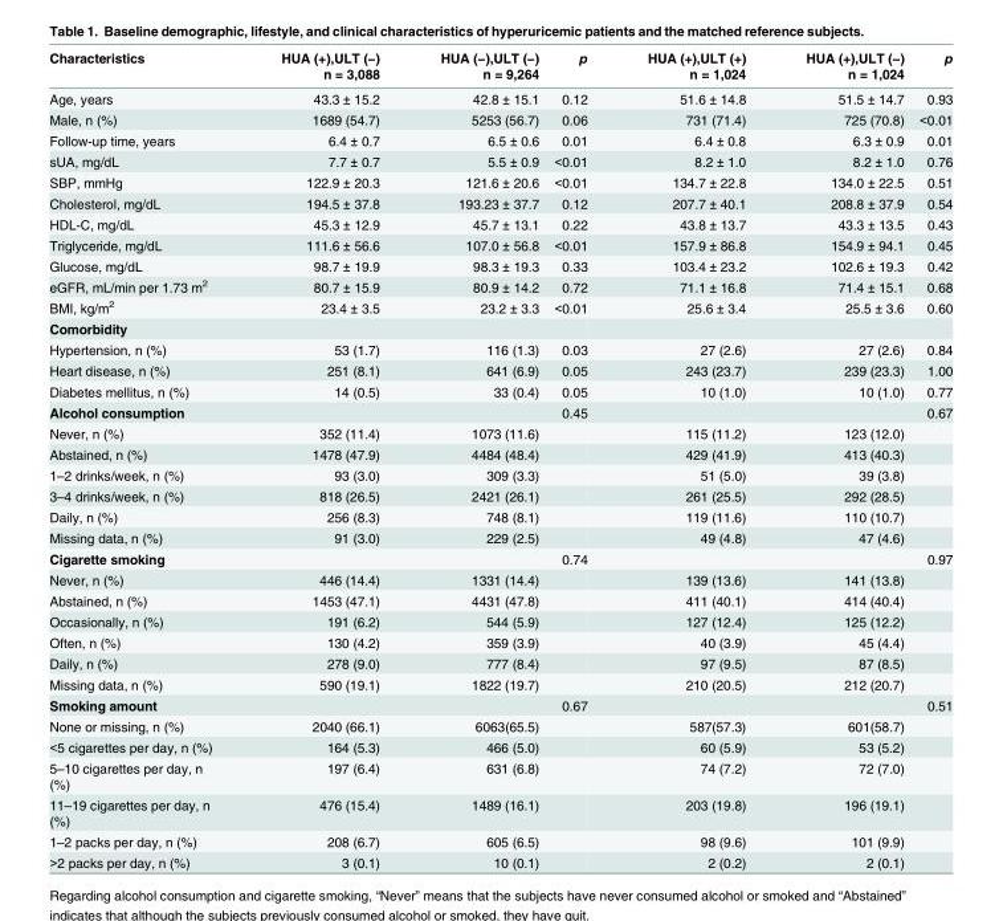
<table><thead><tr><td>Characteristics</td><td>HUA (+),ULT (−) n = 3,088</td><td>HUA (−),ULT (−) n = 9,264</td><td>p</td><td>HUA (+),ULT (+) n = 1,024</td><td>HUA (+),ULT (−) n = 1,024</td><td>p</td></tr></thead><tbody><tr><td>Age, years</td><td>43.3 ± 15.2</td><td>42.8 ± 15.1</td><td>0.12</td><td>51.6 ± 14.8</td><td>51.5 ± 14.7</td><td>0.93</td></tr><tr><td>Male, n (%)</td><td>1689 (54.7)</td><td>5253 (56.7)</td><td>0.06</td><td>731 (71.4)</td><td>725 (70.8)</td><td>&lt;0.01</td></tr><tr><td>Follow-up time, years</td><td>6.4 ± 0.7</td><td>6.5 ± 0.6</td><td>0.01</td><td>6.4 ± 0.8</td><td>6.3 ± 0.9</td><td>0.01</td></tr><tr><td>sUA, mg/dL</td><td>7.7 ± 0.7</td><td>5.5 ± 0.9</td><td>&lt;0.01</td><td>8.2 ± 1.0</td><td>8.2 ± 1.0</td><td>0.76</td></tr><tr><td>SBP, mmHg</td><td>122.9 ± 20.3</td><td>121.6 ± 20.6</td><td>&lt;0.01</td><td>134.7 ± 22.8</td><td>134.0 ± 22.5</td><td>0.51</td></tr><tr><td>Cholesterol, mg/dL</td><td>194.5 ± 37.8</td><td>193.23 ± 37.7</td><td>0.12</td><td>207.7 ± 40.1</td><td>208.8 ± 37.9</td><td>0.54</td></tr><tr><td>HDL-C, mg/dL</td><td>45.3 ± 12.9</td><td>45.7 ± 13.1</td><td>0.22</td><td>43.8 ± 13.7</td><td>43.3 ± 13.5</td><td>0.43</td></tr><tr><td>Triglyceride, mg/dL</td><td>111.6 ± 56.6</td><td>107.0 ± 56.8</td><td>&lt;0.01</td><td>157.9 ± 86.8</td><td>154.9 ± 94.1</td><td>0.45</td></tr><tr><td>Glucose, mg/dL</td><td>98.7 ± 19.9</td><td>98.3 ± 19.3</td><td>0.33</td><td>103.4 ± 23.2</td><td>102.6 ± 19.3</td><td>0.42</td></tr><tr><td>eGFR, mL/min per 1.73 m<sup>2</sup></td><td>80.7 ± 15.9</td><td>80.9 ± 14.2</td><td>0.72</td><td>71.1 ± 16.8</td><td>71.4 ± 15.1</td><td>0.68</td></tr><tr><td>BMI, kg/m<sup>2</sup></td><td>23.4 ± 3.5</td><td>23.2 ± 3.3</td><td>&lt;0.01</td><td>25.6 ± 3.4</td><td>25.5 ± 3.6</td><td>0.60</td></tr><tr><td colspan="7">Comorbidity</td></tr><tr><td>Hypertension, n (%)</td><td>53 (1.7)</td><td>116 (1.3)</td><td>0.03</td><td>27 (2.6)</td><td>27 (2.6)</td><td>0.84</td></tr><tr><td>Heart disease, n (%)</td><td>251 (8.1)</td><td>641 (6.9)</td><td>0.05</td><td>243 (23.7)</td><td>239 (23.3)</td><td>1.00</td></tr><tr><td>Diabetes mellitus, n (%)</td><td>14 (0.5)</td><td>33 (0.4)</td><td>0.05</td><td>10 (1.0)</td><td>10 (1.0)</td><td>0.77</td></tr><tr><td>Alcohol consumption</td><td></td><td></td><td>0.45</td><td></td><td></td><td>0.67</td></tr><tr><td>Never, n (%)</td><td>352 (11.4)</td><td>1073 (11.6)</td><td></td><td>115 (11.2)</td><td>123 (12.0)</td><td></td></tr><tr><td>Abstained, n (%)</td><td>1478 (47.9)</td><td>4484 (48.4)</td><td></td><td>429 (41.9)</td><td>413 (40.3)</td><td></td></tr><tr><td>1–2 drinks/week, n (%)</td><td>93 (3.0)</td><td>309 (3.3)</td><td></td><td>51 (5.0)</td><td>39 (3.8)</td><td></td></tr><tr><td>3–4 drinks/week, n (%)</td><td>818 (26.5)</td><td>2421 (26.1)</td><td></td><td>261 (25.5)</td><td>292 (28.5)</td><td></td></tr><tr><td>Daily, n (%)</td><td>256 (8.3)</td><td>748 (8.1)</td><td></td><td>119 (11.6)</td><td>110 (10.7)</td><td></td></tr><tr><td>Missing data, n (%)</td><td>91 (3.0)</td><td>229 (2.5)</td><td></td><td>49 (4.8)</td><td>47 (4.6)</td><td></td></tr><tr><td>Cigarette smoking</td><td></td><td></td><td>0.74</td><td></td><td></td><td>0.97</td></tr><tr><td>Never, n (%)</td><td>446 (14.4)</td><td>1331 (14.4)</td><td></td><td>139 (13.6)</td><td>141 (13.8)</td><td></td></tr><tr><td>Abstained, n (%)</td><td>1453 (47.1)</td><td>4431 (47.8)</td><td></td><td>411 (40.1)</td><td>414 (40.4)</td><td></td></tr><tr><td>Occasionally, n (%)</td><td>191 (6.2)</td><td>544 (5.9)</td><td></td><td>127 (12.4)</td><td>125 (12.2)</td><td></td></tr><tr><td>Often, n (%)</td><td>130 (4.2)</td><td>359 (3.9)</td><td></td><td>40 (3.9)</td><td>45 (4.4)</td><td></td></tr><tr><td>Daily, n (%)</td><td>278 (9.0)</td><td>777 (8.4)</td><td></td><td>97 (9.5)</td><td>87 (8.5)</td><td></td></tr><tr><td>Missing data, n (%)</td><td>590 (19.1)</td><td>1822 (19.7)</td><td></td><td>210 (20.5)</td><td>212 (20.7)</td><td></td></tr><tr><td>Smoking amount</td><td></td><td></td><td>0.67</td><td></td><td></td><td>0.51</td></tr><tr><td>None or missing, n (%)</td><td>2040 (66.1)</td><td>6063(65.5)</td><td></td><td>587(57.3)</td><td>601(58.7)</td><td></td></tr><tr><td>&lt;5 cigarettes per day, n (%)</td><td>164 (5.3)</td><td>466 (5.0)</td><td></td><td>60 (5.9)</td><td>53 (5.2)</td><td></td></tr><tr><td>5–10 cigarettes per day, n (%)</td><td>197 (6.4)</td><td>631 (6.8)</td><td></td><td>74 (7.2)</td><td>72 (7.0)</td><td></td></tr><tr><td>11–19 cigarettes per day, n (%)</td><td>476 (15.4)</td><td>1489 (16.1)</td><td></td><td>203 (19.8)</td><td>196 (19.1)</td><td></td></tr><tr><td>1–2 packs per day, n (%)</td><td>208 (6.7)</td><td>605 (6.5)</td><td></td><td>98 (9.6)</td><td>101 (9.9)</td><td></td></tr><tr><td>&gt;2 packs per day, n (%)</td><td>3 (0.1)</td><td>10 (0.1)</td><td></td><td>2 (0.2)</td><td>2 (0.1)</td><td></td></tr></tbody></table>